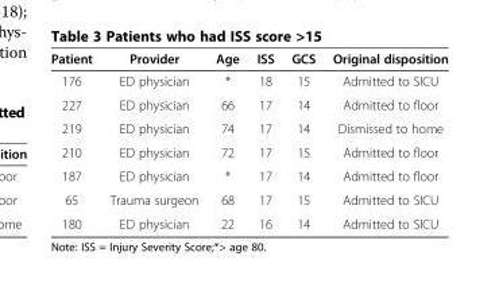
<table><thead><tr><td>Patient</td><td>Provider</td><td>Age</td><td>ISS</td><td>GCS</td><td>Original disposition</td></tr></thead><tbody><tr><td>176</td><td>ED physician</td><td>*</td><td>18</td><td>15</td><td>Admitted to SICU</td></tr><tr><td>227</td><td>ED physician</td><td>66</td><td>17</td><td>14</td><td>Admitted to floor</td></tr><tr><td>219</td><td>ED physician</td><td>74</td><td>17</td><td>14</td><td>Dismissed to home</td></tr><tr><td>210</td><td>ED physician</td><td>72</td><td>17</td><td>15</td><td>Admitted to floor</td></tr><tr><td>187</td><td>ED physician</td><td>*</td><td>17</td><td>14</td><td>Admitted to floor</td></tr><tr><td>65</td><td>Trauma surgeon</td><td>68</td><td>17</td><td>15</td><td>Admitted to SICU</td></tr><tr><td>180</td><td>ED physician</td><td>22</td><td>16</td><td>14</td><td>Admitted to SICU</td></tr></tbody></table>